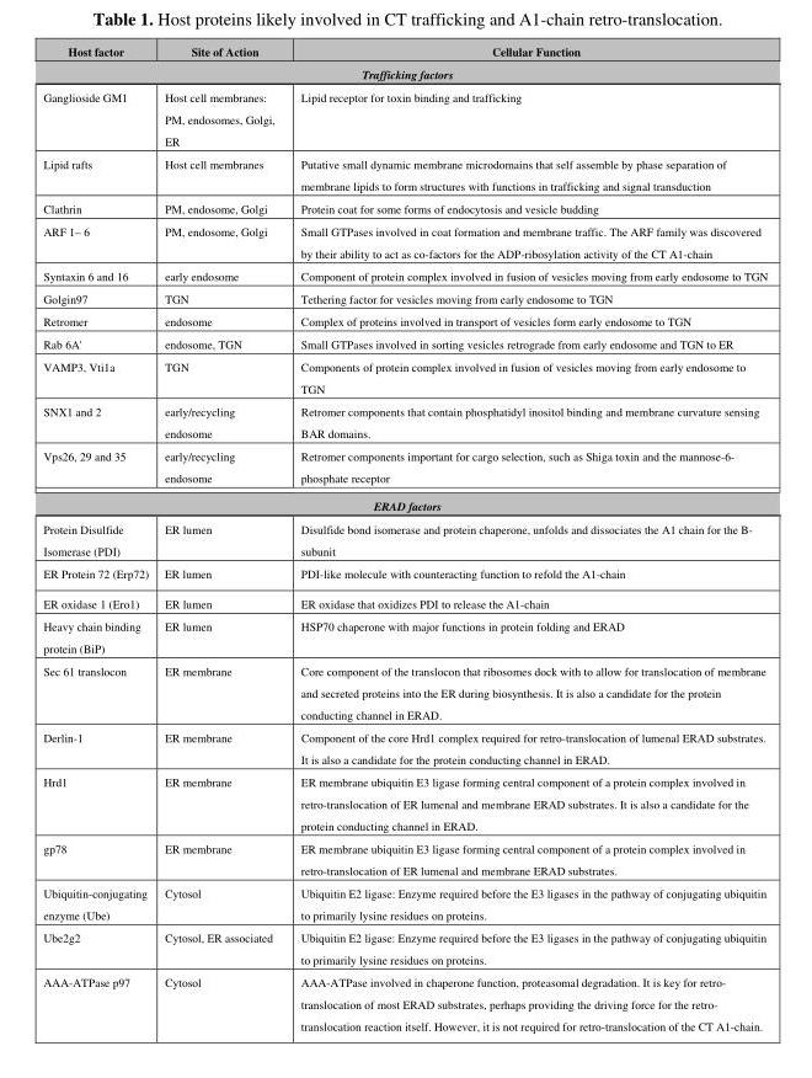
<table><thead><tr><td>Host factor</td><td>Site of Action</td><td>Cellular Function</td></tr></thead><tbody><tr><td colspan="3">Trafficking factors</td></tr><tr><td>Ganglioside GM1</td><td>Host cell membranes: PM, endosomes, Golgi, ER</td><td>Lipid receptor for toxin binding and trafficking</td></tr><tr><td>Lipid rafts</td><td>Host cell membranes</td><td>Putative small dynamic membrane microdomains that self assemble by phase separation of membrane lipids to form structures with functions in trafficking and signal transduction</td></tr><tr><td>Clathrin</td><td>PM, endosome, Golgi</td><td>Protein coat for some forms of endocytosis and vesicle budding</td></tr><tr><td>ARF 1– 6</td><td>PM, endosome, Golgi</td><td>Small GTPases involved in coat formation and membrane traffic. The ARF family was discovered by their ability to act as co-factors for the ADP-ribosylation activity of the CT A1-chain</td></tr><tr><td>Syntaxin 6 and 16</td><td>early endosome</td><td>Component of protein complex involved in fusion of vesicles moving from early endosome to TGN</td></tr><tr><td>Golgin97</td><td>TGN</td><td>Tethering factor for vesicles moving from early endosome to TGN</td></tr><tr><td>Retromer</td><td>endosome</td><td>Complex of proteins involved in transport of vesicles form early endosome to TGN</td></tr><tr><td>Rab 6A&#x27;</td><td>endosome, TGN</td><td>Small GTPases involved in sorting vesicles retrograde from early endosome and TGN to ER</td></tr><tr><td>VAMP3, Vti1a</td><td>TGN</td><td>Components of protein complex involved in fusion of vesicles moving from early endosome to TGN</td></tr><tr><td>SNX1 and 2</td><td>early/recycling endosome</td><td>Retromer components that contain phosphatidyl inositol binding and membrane curvature sensing BAR domains.</td></tr><tr><td>Vps26, 29 and 35</td><td>early/recycling endosome</td><td>Retromer components important for cargo selection, such as Shiga toxin and the mannose-6- phosphate receptor</td></tr><tr><td colspan="3">ERAD factors</td></tr><tr><td>Protein Disulfide Isomerase (PDI)</td><td>ER lumen</td><td>Disulfide bond isomerase and protein chaperone, unfolds and dissociates the A1 chain for the B- subunit</td></tr><tr><td>ER Protein 72 (Erp72)</td><td>ER lumen</td><td>PDI-like molecule with counteracting function to refold the A1-chain</td></tr><tr><td>ER oxidase 1 (Ero1)</td><td>ER lumen</td><td>ER oxidase that oxidizes PDI to release the A1-chain</td></tr><tr><td>Heavy chain binding protein (BiP)</td><td>ER lumen</td><td>HSP70 chaperone with major functions in protein folding and ERAD</td></tr><tr><td>Sec 61 translocon</td><td>ER membrane</td><td>Core component of the translocon that ribosomes dock with to allow for translocation of membrane and secreted proteins into the ER during biosynthesis. It is also a candidate for the protein conducting channel in ERAD.</td></tr><tr><td>Derlin-1</td><td>ER membrane</td><td>Component of the core Hrd1 complex required for retro-translocation of lumenal ERAD substrates. It is also a candidate for the protein conducting channel in ERAD.</td></tr><tr><td>Hrd1</td><td>ER membrane</td><td>ER membrane ubiquitin E3 ligase forming central component of a protein complex involved in retro-translocation of ER lumenal and membrane ERAD substrates. It is also a candidate for the protein conducting channel in ERAD.</td></tr><tr><td>gp78</td><td>ER membrane</td><td>ER membrane ubiquitin E3 ligase forming central component of a protein complex involved in retro-translocation of ER lumenal and membrane ERAD substrates.</td></tr><tr><td>Ubiquitin-conjugating enzyme (Ube)</td><td>Cytosol</td><td>Ubiquitin E2 ligase: Enzyme required before the E3 ligases in the pathway of conjugating ubiquitin to primarily lysine residues on proteins.</td></tr><tr><td>Ube2g2</td><td>Cytosol, ER associated</td><td>Ubiquitin E2 ligase: Enzyme required before the E3 ligases in the pathway of conjugating ubiquitin to primarily lysine residues on proteins.</td></tr><tr><td>AAA-ATPase p97</td><td>Cytosol</td><td>AAA-ATPase involved in chaperone function, proteasomal degradation. It is key for retro- translocation of most ERAD substrates, perhaps providing the driving force for the retro- translocation reaction itself. However, it is not required for retro-translocation of the CT A1-chain.</td></tr></tbody></table>